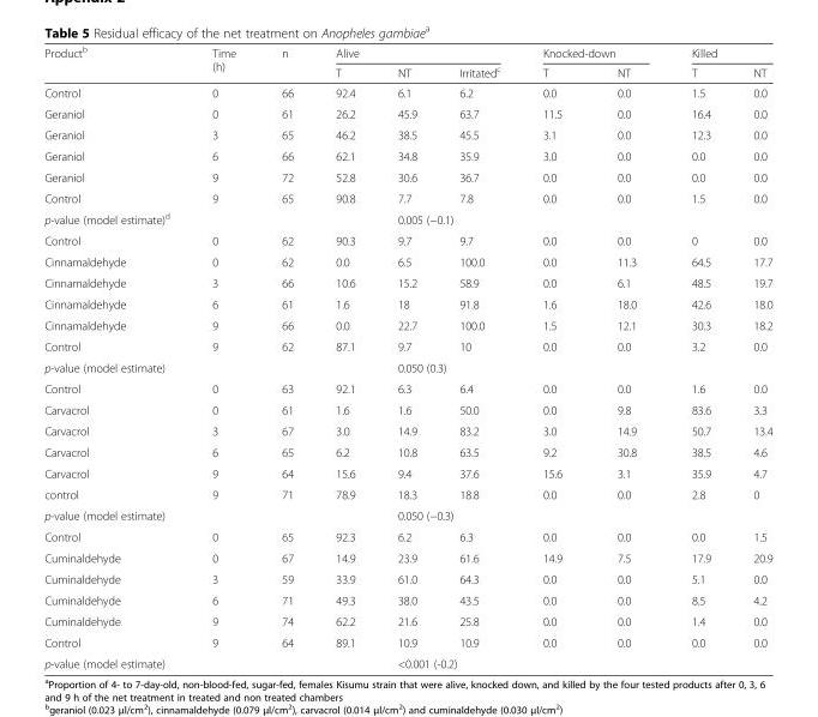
<table><thead><tr><td rowspan="2">Product<sup>b</sup></td><td rowspan="2">Time (h)</td><td rowspan="2">n</td><td colspan="3">Alive</td><td colspan="2">Knocked-down</td><td colspan="2">Killed</td></tr><tr><td>T</td><td>NT</td><td>Irritated<sup>c</sup></td><td>T</td><td>NT</td><td>T</td><td>NT</td></tr></thead><tbody><tr><td>Control</td><td>0</td><td>66</td><td>92.4</td><td>6.1</td><td>6.2</td><td>0.0</td><td>0.0</td><td>1.5</td><td>0.0</td></tr><tr><td>Geraniol</td><td>0</td><td>61</td><td>26.2</td><td>45.9</td><td>63.7</td><td>11.5</td><td>0.0</td><td>16.4</td><td>0.0</td></tr><tr><td>Geraniol</td><td>3</td><td>65</td><td>46.2</td><td>38.5</td><td>45.5</td><td>3.1</td><td>0.0</td><td>12.3</td><td>0.0</td></tr><tr><td>Geraniol</td><td>6</td><td>66</td><td>62.1</td><td>34.8</td><td>35.9</td><td>3.0</td><td>0.0</td><td>0.0</td><td>0.0</td></tr><tr><td>Geraniol</td><td>9</td><td>72</td><td>52.8</td><td>30.6</td><td>36.7</td><td>0.0</td><td>0.0</td><td>0.0</td><td>0.0</td></tr><tr><td>Control</td><td>9</td><td>65</td><td>90.8</td><td>7.7</td><td>7.8</td><td>0.0</td><td>0.0</td><td>1.5</td><td>0.0</td></tr><tr><td>p-value (model estimate)<sup>d</sup></td><td></td><td></td><td></td><td colspan="2">0.005 (−0.1)</td><td></td><td></td><td></td><td></td></tr><tr><td>Control</td><td>0</td><td>62</td><td>90.3</td><td>9.7</td><td>9.7</td><td>0.0</td><td>0.0</td><td>0</td><td>0.0</td></tr><tr><td>Cinnamaldehyde</td><td>0</td><td>62</td><td>0.0</td><td>6.5</td><td>100.0</td><td>0.0</td><td>11.3</td><td>64.5</td><td>17.7</td></tr><tr><td>Cinnamaldehyde</td><td>3</td><td>66</td><td>10.6</td><td>15.2</td><td>58.9</td><td>0.0</td><td>6.1</td><td>48.5</td><td>19.7</td></tr><tr><td>Cinnamaldehyde</td><td>6</td><td>61</td><td>1.6</td><td>18</td><td>91.8</td><td>1.6</td><td>18.0</td><td>42.6</td><td>18.0</td></tr><tr><td>Cinnamaldehyde</td><td>9</td><td>66</td><td>0.0</td><td>22.7</td><td>100.0</td><td>1.5</td><td>12.1</td><td>30.3</td><td>18.2</td></tr><tr><td>Control</td><td>9</td><td>62</td><td>87.1</td><td>9.7</td><td>10</td><td>0.0</td><td>0.0</td><td>3.2</td><td>0.0</td></tr><tr><td>p-value (model estimate)</td><td></td><td></td><td></td><td colspan="2">0.050 (0.3)</td><td></td><td></td><td></td><td></td></tr><tr><td>Control</td><td>0</td><td>63</td><td>92.1</td><td>6.3</td><td>6.4</td><td>0.0</td><td>0.0</td><td>1.6</td><td>0.0</td></tr><tr><td>Carvacrol</td><td>0</td><td>61</td><td>1.6</td><td>1.6</td><td>50.0</td><td>0.0</td><td>9.8</td><td>83.6</td><td>3.3</td></tr><tr><td>Carvacrol</td><td>3</td><td>67</td><td>3.0</td><td>14.9</td><td>83.2</td><td>3.0</td><td>14.9</td><td>50.7</td><td>13.4</td></tr><tr><td>Carvacrol</td><td>6</td><td>65</td><td>6.2</td><td>10.8</td><td>63.5</td><td>9.2</td><td>30.8</td><td>38.5</td><td>4.6</td></tr><tr><td>Carvacrol</td><td>9</td><td>64</td><td>15.6</td><td>9.4</td><td>37.6</td><td>15.6</td><td>3.1</td><td>35.9</td><td>4.7</td></tr><tr><td>control</td><td>9</td><td>71</td><td>78.9</td><td>18.3</td><td>18.8</td><td>0.0</td><td>0.0</td><td>2.8</td><td>0</td></tr><tr><td>p-value (model estimate)</td><td></td><td></td><td></td><td colspan="2">0.050 (−0.3)</td><td></td><td></td><td></td><td></td></tr><tr><td>Control</td><td>0</td><td>65</td><td>92.3</td><td>6.2</td><td>6.3</td><td>0.0</td><td>0.0</td><td>0.0</td><td>1.5</td></tr><tr><td>Cuminaldehyde</td><td>0</td><td>67</td><td>14.9</td><td>23.9</td><td>61.6</td><td>14.9</td><td>7.5</td><td>17.9</td><td>20.9</td></tr><tr><td>Cuminaldehyde</td><td>3</td><td>59</td><td>33.9</td><td>61.0</td><td>64.3</td><td>0.0</td><td>0.0</td><td>5.1</td><td>0.0</td></tr><tr><td>Cuminaldehyde</td><td>6</td><td>71</td><td>49.3</td><td>38.0</td><td>43.5</td><td>0.0</td><td>0.0</td><td>8.5</td><td>4.2</td></tr><tr><td>Cuminaldehyde</td><td>9</td><td>74</td><td>62.2</td><td>21.6</td><td>25.8</td><td>0.0</td><td>0.0</td><td>1.4</td><td>0.0</td></tr><tr><td>Control</td><td>9</td><td>64</td><td>89.1</td><td>10.9</td><td>10.9</td><td>0.0</td><td>0.0</td><td>0.0</td><td>0.0</td></tr><tr><td>p-value (model estimate)</td><td></td><td></td><td></td><td colspan="2">&lt;0.001 (-0.2)</td><td></td><td></td><td></td><td></td></tr></tbody></table>